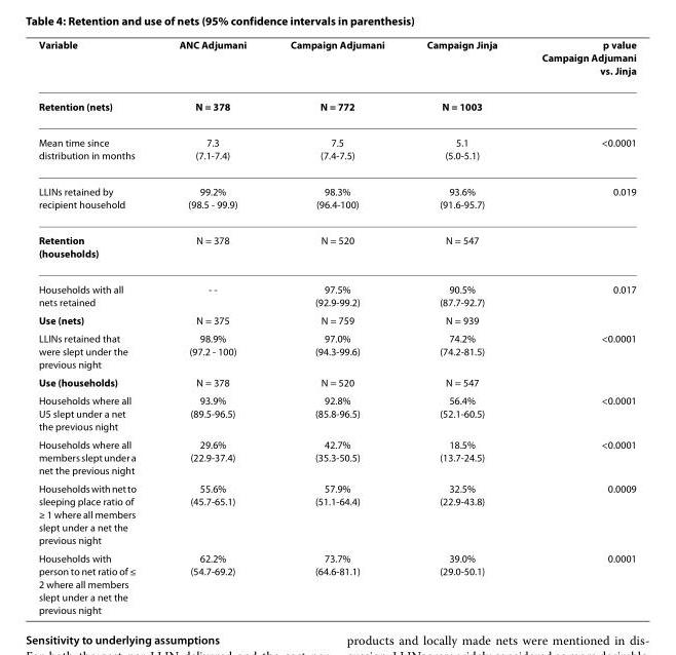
<table><thead><tr><td>Variable</td><td>ANC Adjumani</td><td>Campaign Adjumani</td><td>Campaign Jinja</td><td>p value Campaign Adjumani vs. Jinja</td></tr></thead><tbody><tr><td>Retention (nets)</td><td>N = 378</td><td>N = 772</td><td>N = 1003</td><td></td></tr><tr><td>Mean time since distribution in months</td><td>7.3 (7.1-7.4)</td><td>7.5 (7.4-7.5)</td><td>5.1 (5.0-5.1)</td><td>&lt;0.0001</td></tr><tr><td>LLINs retained by recipient household</td><td>99.2% (98.5 - 99.9)</td><td>98.3% (96.4-100)</td><td>93.6% (91.6-95.7)</td><td>0.019</td></tr><tr><td>Retention (households)</td><td>N = 378</td><td>N = 520</td><td>N = 547</td><td></td></tr><tr><td>Households with all nets retained</td><td>- -</td><td>97.5% (92.9-99.2)</td><td>90.5% (87.7-92.7)</td><td>0.017</td></tr><tr><td>Use (nets)</td><td>N = 375</td><td>N = 759</td><td>N = 939</td><td></td></tr><tr><td>LLINs retained that were slept under the previous night</td><td>98.9% (97.2 - 100)</td><td>97.0% (94.3-99.6)</td><td>74.2% (74.2-81.5)</td><td>&lt;0.0001</td></tr><tr><td>Use (households)</td><td>N = 378</td><td>N = 520</td><td>N = 547</td><td></td></tr><tr><td>Households where all U5 slept under a net the previous night</td><td>93.9% (89.5-96.5)</td><td>92.8% (85.8-96.5)</td><td>56.4% (52.1-60.5)</td><td>&lt;0.0001</td></tr><tr><td>Households where all members slept under a net the previous night</td><td>29.6% (22.9-37.4)</td><td>42.7% (35.3-50.5)</td><td>18.5% (13.7-24.5)</td><td>&lt;0.0001</td></tr><tr><td>Households with net to sleeping place ratio of ≥ 1 where all members slept under a net the previous night</td><td>55.6% (45.7-65.1)</td><td>57.9% (51.1-64.4)</td><td>32.5% (22.9-43.8)</td><td>0.0009</td></tr><tr><td>Households with person to net ratio of ≤ 2 where all members slept under a net the previous night</td><td>62.2% (54.7-69.2)</td><td>73.7% (64.6-81.1)</td><td>39.0% (29.0-50.1)</td><td>0.0001</td></tr></tbody></table>